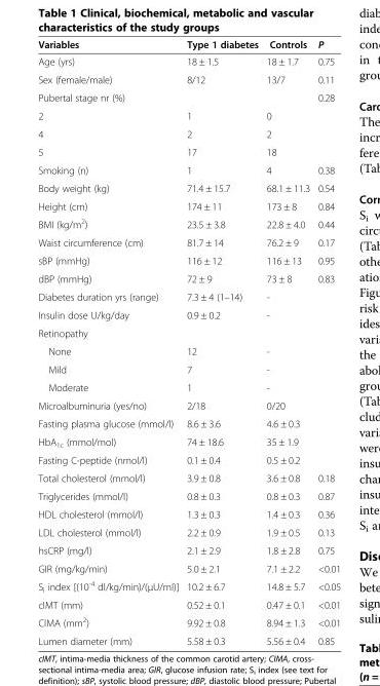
<table><thead><tr><td>Variables</td><td>Type 1 diabetes</td><td>Controls</td><td>P</td></tr></thead><tbody><tr><td>Age (yrs)</td><td>18 ± 1.5</td><td>18 ± 1.7</td><td>0.75</td></tr><tr><td>Sex (female/male)</td><td>8/12</td><td>13/7</td><td>0.11</td></tr><tr><td>Pubertal stage nr (%)</td><td></td><td></td><td>0.28</td></tr><tr><td>2</td><td>1</td><td>0</td><td></td></tr><tr><td>4</td><td>2</td><td>2</td><td></td></tr><tr><td>5</td><td>17</td><td>18</td><td></td></tr><tr><td>Smoking (n)</td><td>1</td><td>4</td><td>0.38</td></tr><tr><td>Body weight (kg)</td><td>71.4 ± 15.7</td><td>68.1 ± 11.3</td><td>0.54</td></tr><tr><td>Height (cm)</td><td>174 ± 11</td><td>173 ± 8</td><td>0.84</td></tr><tr><td>BMI (kg/m<sup>2</sup>)</td><td>23.5 ± 3.8</td><td>22.8 ± 4.0</td><td>0.44</td></tr><tr><td>Waist circumference (cm)</td><td>81.7 ± 14</td><td>76.2 ± 9</td><td>0.17</td></tr><tr><td>sBP (mmHg)</td><td>116 ± 12</td><td>116 ± 13</td><td>0.95</td></tr><tr><td>dBP (mmHg)</td><td>72 ± 9</td><td>73 ± 8</td><td>0.83</td></tr><tr><td>Diabetes duration yrs (range)</td><td>7.3 ± 4 (1–14)</td><td>-</td><td></td></tr><tr><td>Insulin dose U/kg/day</td><td>0.9 ± 0.2</td><td>-</td><td></td></tr><tr><td colspan="4">Retinopathy</td></tr><tr><td>None</td><td>12</td><td>-</td><td></td></tr><tr><td>Mild</td><td>7</td><td>-</td><td></td></tr><tr><td>Moderate</td><td>1</td><td>-</td><td></td></tr><tr><td>Microalbuminuria (yes/no)</td><td>2/18</td><td>0/20</td><td></td></tr><tr><td>Fasting plasma glucose (mmol/l)</td><td>8.6 ± 3.6</td><td>4.6 ± 0.3</td><td></td></tr><tr><td>HbA<sub>1c</sub> (mmol/mol)</td><td>74 ± 18.6</td><td>35 ± 1.9</td><td></td></tr><tr><td>Fasting C-peptide (nmol/l)</td><td>0.1 ± 0.4</td><td>0.5 ± 0.2</td><td></td></tr><tr><td>Total cholesterol (mmol/l)</td><td>3.9 ± 0.8</td><td>3.6 ± 0.8</td><td>0.18</td></tr><tr><td>Triglycerides (mmol/l)</td><td>0.8 ± 0.3</td><td>0.8 ± 0.3</td><td>0.87</td></tr><tr><td>HDL cholesterol (mmol/l)</td><td>1.3 ± 0.3</td><td>1.4 ± 0.3</td><td>0.36</td></tr><tr><td>LDL cholesterol (mmol/l)</td><td>2.2 ± 0.9</td><td>1.9 ± 0.5</td><td>0.13</td></tr><tr><td>hsCRP (mg/l)</td><td>2.1 ± 2.9</td><td>1.8 ± 2.8</td><td>0.75</td></tr><tr><td>GIR (mg/kg/min)</td><td>5.0 ± 2.1</td><td>7.1 ± 2.2</td><td>&lt;0.01</td></tr><tr><td>S<sub>i</sub> index [(10<sup>-4</sup> dl/kg/min)/(μU/ml)]</td><td>10.2 ± 6.7</td><td>14.8 ± 5.7</td><td>&lt;0.05</td></tr><tr><td>cIMT (mm)</td><td>0.52 ± 0.1</td><td>0.47 ± 0.1</td><td>&lt;0.01</td></tr><tr><td>CIMA (mm<sup>2</sup>)</td><td>9.92 ± 0.8</td><td>8.94 ± 1.3</td><td>&lt;0.01</td></tr><tr><td>Lumen diameter (mm)</td><td>5.58 ± 0.3</td><td>5.56 ± 0.4</td><td>0.85</td></tr></tbody></table>